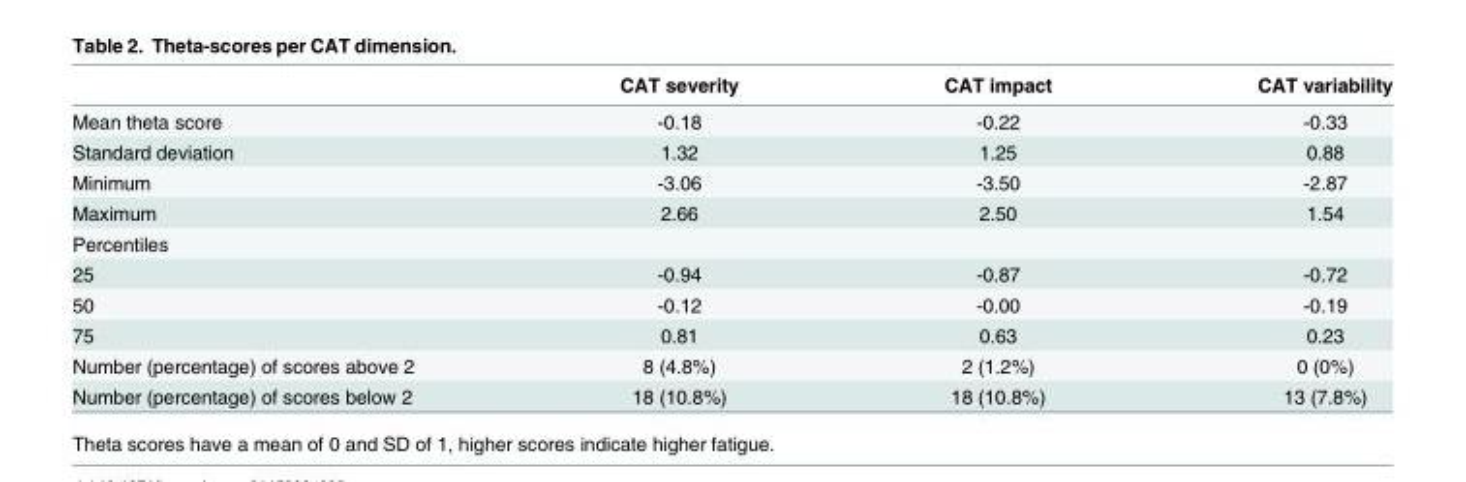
<table><thead><tr><td></td><td>CAT severity</td><td>CAT impact</td><td>CAT variability</td></tr></thead><tbody><tr><td>Mean theta score</td><td>-0.18</td><td>-0.22</td><td>-0.33</td></tr><tr><td>Standard deviation</td><td>1.32</td><td>1.25</td><td>0.88</td></tr><tr><td>Minimum</td><td>-3.06</td><td>-3.50</td><td>-2.87</td></tr><tr><td>Maximum</td><td>2.66</td><td>2.50</td><td>1.54</td></tr><tr><td colspan="4">Percentiles</td></tr><tr><td>25</td><td>-0.94</td><td>-0.87</td><td>-0.72</td></tr><tr><td>50</td><td>-0.12</td><td>-0.00</td><td>-0.19</td></tr><tr><td>75</td><td>0.81</td><td>0.63</td><td>0.23</td></tr><tr><td>Number (percentage) of scores above 2</td><td>8 (4.8%)</td><td>2 (1.2%)</td><td>0 (0%)</td></tr><tr><td>Number (percentage) of scores below 2</td><td>18 (10.8%)</td><td>18 (10.8%)</td><td>13 (7.8%)</td></tr></tbody></table>